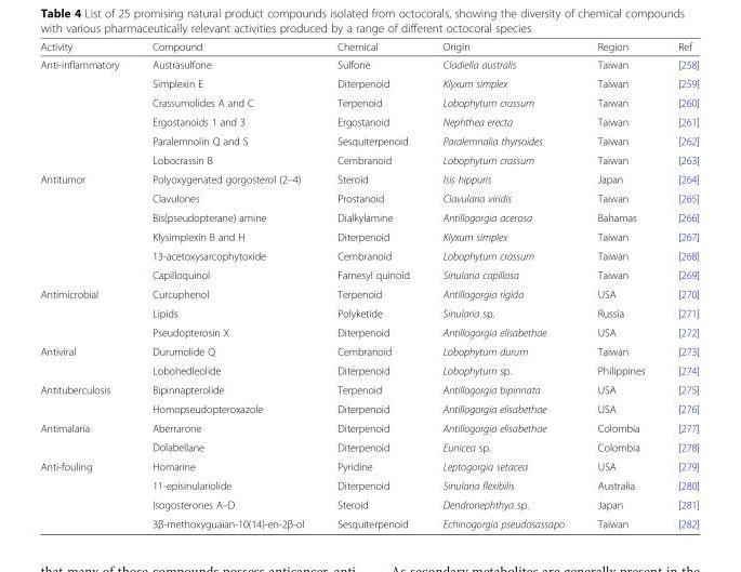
<table><thead><tr><td>Activity</td><td>Compound</td><td>Chemical</td><td>Origin</td><td>Region</td><td>Ref</td></tr></thead><tbody><tr><td rowspan="6">Anti-inflammatory</td><td>Austrasulfone</td><td>Sulfone</td><td>Cladiella australis</td><td>Taiwan</td><td>[258]</td></tr><tr><td>Simplexin E</td><td>Diterpenoid</td><td>Klyxum simplex</td><td>Taiwan</td><td>[259]</td></tr><tr><td>Crassumolides A and C</td><td>Terpenoid</td><td>Lobophytum crassum</td><td>Taiwan</td><td>[260]</td></tr><tr><td>Ergostanoids 1 and 3</td><td>Ergostanoid</td><td>Nephthea erecta</td><td>Taiwan</td><td>[261]</td></tr><tr><td>Paralemnolin Q and S</td><td>Sesquiterpenoid</td><td>Paralemnalia thyrsoides</td><td>Taiwan</td><td>[262]</td></tr><tr><td>Lobocrassin B</td><td>Cembranoid</td><td>Lobophytum crassum</td><td>Taiwan</td><td>[263]</td></tr><tr><td rowspan="6">Antitumor</td><td>Polyoxygenated gorgosterol (2–4)</td><td>Steroid</td><td>Isis hippuris</td><td>Japan</td><td>[264]</td></tr><tr><td>Clavulones</td><td>Prostanoid</td><td>Clavularia viridis</td><td>Taiwan</td><td>[265]</td></tr><tr><td>Bis(pseudopterane) amine</td><td>Dialkylamine</td><td>Antillogorgia acerosa</td><td>Bahamas</td><td>[266]</td></tr><tr><td>Klysimplexin B and H</td><td>Diterpenoid</td><td>Klyxum simplex</td><td>Taiwan</td><td>[267]</td></tr><tr><td>13-acetoxysarcophytoxide</td><td>Cembranoid</td><td>Lobophytum crassum</td><td>Taiwan</td><td>[268]</td></tr><tr><td>Capilloquinol</td><td>Farnesyl quinoid</td><td>Sinularia capillosa</td><td>Taiwan</td><td>[269]</td></tr><tr><td rowspan="3">Antimicrobial</td><td>Curcuphenol</td><td>Terpenoid</td><td>Antillogorgia rigida</td><td>USA</td><td>[270]</td></tr><tr><td>Lipids</td><td>Polyketide</td><td>Sinularia sp.</td><td>Russia</td><td>[271]</td></tr><tr><td>Pseudopterosin X</td><td>Diterpenoid</td><td>Antillogorgia elisabethae</td><td>USA</td><td>[272]</td></tr><tr><td rowspan="2">Antiviral</td><td>Durumolide Q</td><td>Cembranoid</td><td>Lobophytum durum</td><td>Taiwan</td><td>[273]</td></tr><tr><td>Lobohedleolide</td><td>Diterpenoid</td><td>Lobophytum sp.</td><td>Philippines</td><td>[274]</td></tr><tr><td rowspan="2">Antituberculosis</td><td>Bipinnapterolide</td><td>Terpenoid</td><td>Antillogorgia bipinnata</td><td>USA</td><td>[275]</td></tr><tr><td>Homopseudopteroxazole</td><td>Diterpenoid</td><td>Antillogorgia elisabethae</td><td>USA</td><td>[276]</td></tr><tr><td rowspan="2">Antimalaria</td><td>Aberrarone</td><td>Diterpenoid</td><td>Antillogorgia elisabethae</td><td>Colombia</td><td>[277]</td></tr><tr><td>Dolabellane</td><td>Diterpenoid</td><td>Eunicea sp.</td><td>Colombia</td><td>[278]</td></tr><tr><td rowspan="4">Anti-fouling</td><td>Homarine</td><td>Pyridine</td><td>Leptogorgia setacea</td><td>USA</td><td>[279]</td></tr><tr><td>11-episinulariolide</td><td>Diterpenoid</td><td>Sinularia flexibilis</td><td>Australia</td><td>[280]</td></tr><tr><td>Isogosterones A–D</td><td>Steroid</td><td>Dendronephthya sp.</td><td>Japan</td><td>[281]</td></tr><tr><td>3β-methoxyguaian-10(14)-en-2β-ol</td><td>Sesquiterpenoid</td><td>Echinogorgia pseudosassapo</td><td>Taiwan</td><td>[282]</td></tr></tbody></table>